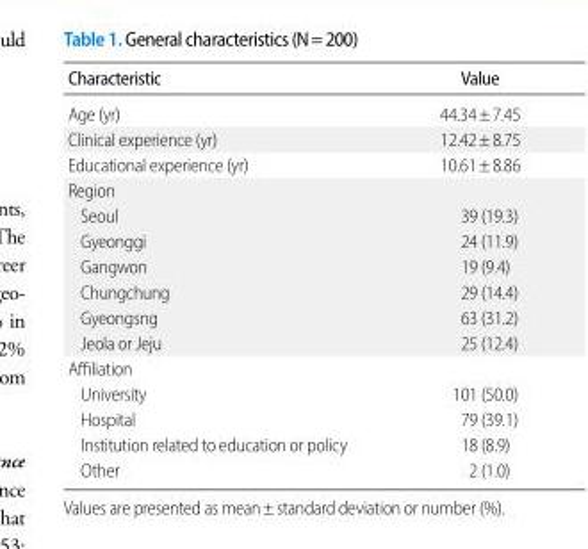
<table><thead><tr><td>Characteristic</td><td>Value</td></tr></thead><tbody><tr><td>Age (yr)</td><td>44.34±7.45</td></tr><tr><td>Clinical experience (yr)</td><td>12.42±8.75</td></tr><tr><td>Educational experience (yr)</td><td>10.61±8.86</td></tr><tr><td colspan="2">Region</td></tr><tr><td>Seoul</td><td>39 (19.3)</td></tr><tr><td>Gyeonggi</td><td>24 (11.9)</td></tr><tr><td>Gangwon</td><td>19 (9.4)</td></tr><tr><td>Chungchung</td><td>29 (14.4)</td></tr><tr><td>Gyeongsng</td><td>63 (31.2)</td></tr><tr><td>Jeola or Jeju</td><td>25 (12.4)</td></tr><tr><td colspan="2">Affiliation</td></tr><tr><td>University</td><td>101 (50.0)</td></tr><tr><td>Hospital</td><td>79 (39.1)</td></tr><tr><td>Institution related to education or policy</td><td>18 (8.9)</td></tr><tr><td>Other</td><td>2 (1.0)</td></tr></tbody></table>